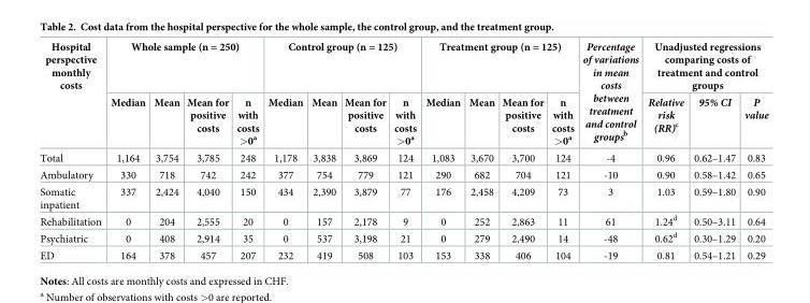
<table><thead><tr><td rowspan="2">Hospital perspective monthly costs</td><td colspan="4">Whole sample (n = 250)</td><td colspan="4">Control group (n = 125)</td><td colspan="4">Treatment group (n = 125)</td><td rowspan="2">Percentage of variations in mean costs between treatment and control groups<sup>b</sup></td><td colspan="3">Unadjusted regressions comparing costs of treatment and control groups</td></tr><tr><td>Median</td><td>Mean</td><td>Mean for positive costs</td><td>n with costs &gt;0<sup>a</sup></td><td>Median</td><td>Mean</td><td>Mean for positive costs</td><td>n with costs &gt;0<sup>a</sup></td><td>Median</td><td>Mean</td><td>Mean for positive costs</td><td>n with costs &gt;0<sup>a</sup></td><td>Relative risk (RR)<sup>c</sup></td><td>95% CI</td><td>P value</td></tr></thead><tbody><tr><td>Total</td><td>1,164</td><td>3,754</td><td>3,785</td><td>248</td><td>1,178</td><td>3,838</td><td>3,869</td><td>124</td><td>1,083</td><td>3,670</td><td>3,700</td><td>124</td><td>-4</td><td>0.96</td><td>0.62–1.47</td><td>0.83</td></tr><tr><td>Ambulatory</td><td>330</td><td>718</td><td>742</td><td>242</td><td>377</td><td>754</td><td>779</td><td>121</td><td>290</td><td>682</td><td>704</td><td>121</td><td>-10</td><td>0.90</td><td>0.58–1.42</td><td>0.65</td></tr><tr><td>Somatic inpatient</td><td>337</td><td>2,424</td><td>4,040</td><td>150</td><td>434</td><td>2,390</td><td>3,879</td><td>77</td><td>176</td><td>2,458</td><td>4,209</td><td>73</td><td>3</td><td>1.03</td><td>0.59–1.80</td><td>0.90</td></tr><tr><td>Rehabilitation</td><td>0</td><td>204</td><td>2,555</td><td>20</td><td>0</td><td>157</td><td>2,178</td><td>9</td><td>0</td><td>252</td><td>2,863</td><td>11</td><td>61</td><td>1.24<sup>d</sup></td><td>0.50–3.11</td><td>0.64</td></tr><tr><td>Psychiatric</td><td>0</td><td>408</td><td>2,914</td><td>35</td><td>0</td><td>537</td><td>3,198</td><td>21</td><td>0</td><td>279</td><td>2,490</td><td>14</td><td>-48</td><td>0.62<sup>d</sup></td><td>0.30–1.29</td><td>0.20</td></tr><tr><td>ED</td><td>164</td><td>378</td><td>457</td><td>207</td><td>232</td><td>419</td><td>508</td><td>103</td><td>153</td><td>338</td><td>406</td><td>104</td><td>-19</td><td>0.81</td><td>0.54–1.21</td><td>0.29</td></tr></tbody></table>